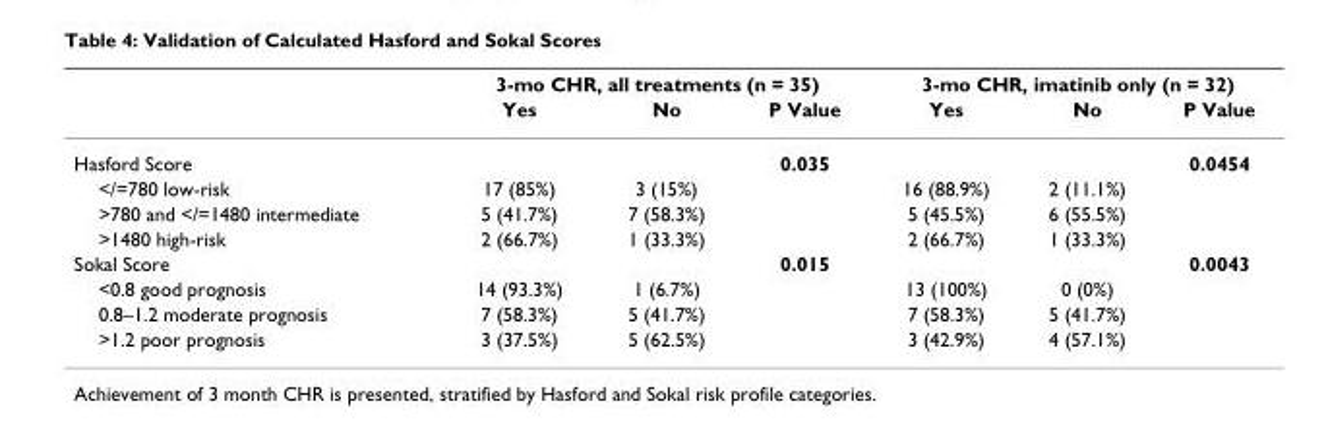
<table><thead><tr><td rowspan="2"></td><td colspan="3">3-mo CHR, all treatments (n = 35)</td><td colspan="3">3-mo CHR, imatinib only (n = 32)</td></tr><tr><td>Yes</td><td>No</td><td>P Value</td><td>Yes</td><td>No</td><td>P Value</td></tr></thead><tbody><tr><td>Hasford Score</td><td></td><td></td><td>0.035</td><td></td><td></td><td>0.0454</td></tr><tr><td>&lt;/=780 low-risk</td><td>17 (85%)</td><td>3 (15%)</td><td></td><td>16 (88.9%)</td><td>2 (11.1%)</td><td></td></tr><tr><td>&gt;780 and &lt;/=1480 intermediate</td><td>5 (41.7%)</td><td>7 (58.3%)</td><td></td><td>5 (45.5%)</td><td>6 (55.5%)</td><td></td></tr><tr><td>&gt;1480 high-risk</td><td>2 (66.7%)</td><td>1 (33.3%)</td><td></td><td>2 (66.7%)</td><td>1 (33.3%)</td><td></td></tr><tr><td>Sokal Score</td><td></td><td></td><td>0.015</td><td></td><td></td><td>0.0043</td></tr><tr><td>&lt;0.8 good prognosis</td><td>14 (93.3%)</td><td>1 (6.7%)</td><td></td><td>13 (100%)</td><td>0 (0%)</td><td></td></tr><tr><td>0.8–1.2 moderate prognosis</td><td>7 (58.3%)</td><td>5 (41.7%)</td><td></td><td>7 (58.3%)</td><td>5 (41.7%)</td><td></td></tr><tr><td>&gt;1.2 poor prognosis</td><td>3 (37.5%)</td><td>5 (62.5%)</td><td></td><td>3 (42.9%)</td><td>4 (57.1%)</td><td></td></tr></tbody></table>